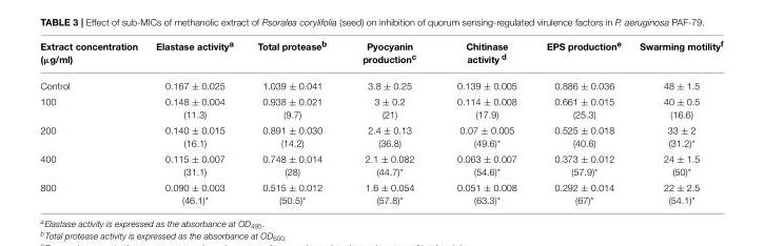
<table><thead><tr><td>Extract concentration (µg/ml)</td><td>Elastase activity<sup>a</sup></td><td>Total protease<sup>b</sup></td><td>Pyocyanin production<sup>c</sup></td><td>Chitinase activity <sup>d</sup></td><td>EPS production<sup>e</sup></td><td>Swarming motility<sup>f</sup></td></tr></thead><tbody><tr><td>Control</td><td>0.167 ± 0.025</td><td>1.039 ± 0.041</td><td>3.8 ± 0.25</td><td>0.139 ± 0.005</td><td>0.886 ± 0.036</td><td>48 ± 1.5</td></tr><tr><td>100</td><td>0.148 ± 0.004 (11.3)</td><td>0.938 ± 0.021 (9.7)</td><td>3 ± 0.2 (21)</td><td>0.114 ± 0.008 (17.9)</td><td>0.661 ± 0.015 (25.3)</td><td>40 ± 0.5 (16.6)</td></tr><tr><td>200</td><td>0.140 ± 0.015 (16.1)</td><td>0.891 ± 0.030 (14.2)</td><td>2.4 ± 0.13 (36.8)</td><td>0.07 ± 0.005 (49.6)*</td><td>0.525 ± 0.018 (40.6)</td><td>33 ± 2 (31.2)*</td></tr><tr><td>400</td><td>0.115 ± 0.007 (31.1)</td><td>0.748 ± 0.014 (28)</td><td>2.1 ± 0.082 (44.7)*</td><td>0.063 ± 0.007 (54.6)*</td><td>0.373 ± 0.012 (57.9)*</td><td>24 ± 1.5 (50)*</td></tr><tr><td>800</td><td>0.090 ± 0.003 (46.1)*</td><td>0.515 ± 0.012 (50.5)*</td><td>1.6 ± 0.054 (57.8)*</td><td>0.051 ± 0.008 (63.3)*</td><td>0.292 ± 0.014 (67)*</td><td>22 ± 2.5 (54.1)*</td></tr></tbody></table>